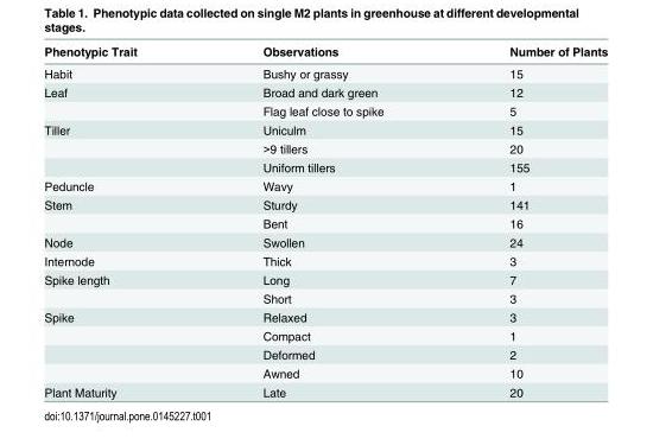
<table><thead><tr><td>Phenotypic Trait</td><td>Observations</td><td>Number of Plants</td></tr></thead><tbody><tr><td>Habit</td><td>Bushy or grassy</td><td>15</td></tr><tr><td rowspan="2">Leaf</td><td>Broad and dark green</td><td>12</td></tr><tr><td>Flag leaf close to spike</td><td>5</td></tr><tr><td rowspan="3">Tiller</td><td>Uniculm</td><td>15</td></tr><tr><td>&gt;9 tillers</td><td>20</td></tr><tr><td>Uniform tillers</td><td>155</td></tr><tr><td>Peduncle</td><td>Wavy</td><td>1</td></tr><tr><td rowspan="2">Stem</td><td>Sturdy</td><td>141</td></tr><tr><td>Bent</td><td>16</td></tr><tr><td>Node</td><td>Swollen</td><td>24</td></tr><tr><td>Internode</td><td>Thick</td><td>3</td></tr><tr><td rowspan="2">Spike length</td><td>Long</td><td>7</td></tr><tr><td>Short</td><td>3</td></tr><tr><td rowspan="4">Spike</td><td>Relaxed</td><td>3</td></tr><tr><td>Compact</td><td>1</td></tr><tr><td>Deformed</td><td>2</td></tr><tr><td>Awned</td><td>10</td></tr><tr><td>Plant Maturity</td><td>Late</td><td>20</td></tr></tbody></table>